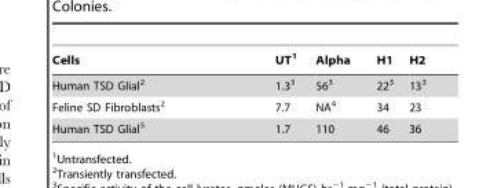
<table><thead><tr><td>Cells</td><td>UT<sup>1</sup></td><td>Alpha</td><td>H1</td><td>H2</td></tr></thead><tbody><tr><td>Human TSD Glial<sup>2</sup></td><td>1.3<sup>3</sup></td><td>56<sup>3</sup></td><td>22<sup>3</sup></td><td>13<sup>3</sup></td></tr><tr><td>Feline SD Fibroblasts<sup>2</sup></td><td>7.7</td><td>NA<sup>4</sup></td><td>34</td><td>23</td></tr><tr><td>Human TSD Glial<sup>5</sup></td><td>1.7</td><td>110</td><td>46</td><td>36</td></tr></tbody></table>